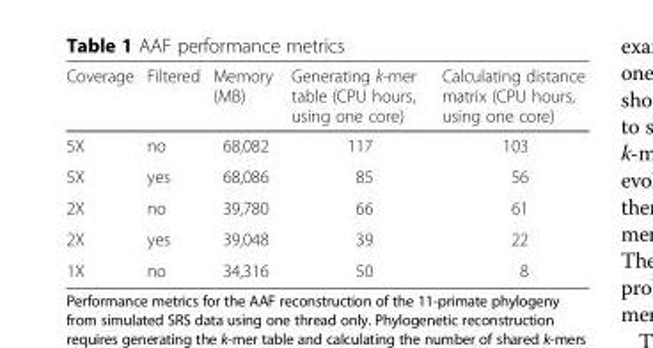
<table><thead><tr><td>Coverage</td><td>Filtered</td><td>Memory (MB)</td><td>Generating k-mer table (CPU hours, using one core)</td><td>Calculating distance matrix (CPU hours, using one core)</td></tr></thead><tbody><tr><td>5X</td><td>no</td><td>68,082</td><td>117</td><td>103</td></tr><tr><td>5X</td><td>yes</td><td>68,086</td><td>85</td><td>56</td></tr><tr><td>2X</td><td>no</td><td>39,780</td><td>66</td><td>61</td></tr><tr><td>2X</td><td>yes</td><td>39,048</td><td>39</td><td>22</td></tr><tr><td>1X</td><td>no</td><td>34,316</td><td>50</td><td>8</td></tr></tbody></table>